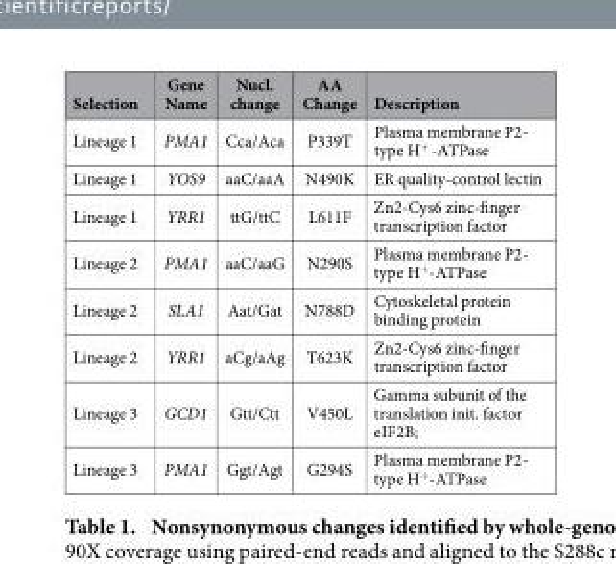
<table><thead><tr><td>Selection</td><td>Gene Name</td><td>Nucl. change</td><td>AA Change</td><td>Description</td></tr></thead><tbody><tr><td>Lineage 1</td><td>PMA1</td><td>Cca/Aca</td><td>P339T</td><td>Plasma membrane P2- type H<sup>+</sup> -ATPase</td></tr><tr><td>Lineage 1</td><td>YOS9</td><td>aaC/aaA</td><td>N490K</td><td>ER quality-control lectin</td></tr><tr><td>Lineage 1</td><td>YRR1</td><td>ttG/ttC</td><td>L611F</td><td>Zn2-Cys6 zinc-finger transcription factor</td></tr><tr><td>Lineage 2</td><td>PMA1</td><td>aaC/aaG</td><td>N290S</td><td>Plasma membrane P2- type H<sup>+</sup> -ATPase</td></tr><tr><td>Lineage 2</td><td>SLA1</td><td>Aat/Gat</td><td>N788D</td><td>Cytoskeletal protein binding protein</td></tr><tr><td>Lineage 2</td><td>YRR1</td><td>aCg/aAg</td><td>T623K</td><td>Zn2-Cys6 zinc-finger transcription factor</td></tr><tr><td>Lineage 3</td><td>GCD1</td><td>Gtt/Ctt</td><td>V450L</td><td>Gamma subunit of the translation init. factor eIF2B;</td></tr><tr><td>Lineage 3</td><td>PMA1</td><td>Ggt/Agt</td><td>G294S</td><td>Plasma membrane P2- type H<sup>+</sup> -ATPase</td></tr></tbody></table>